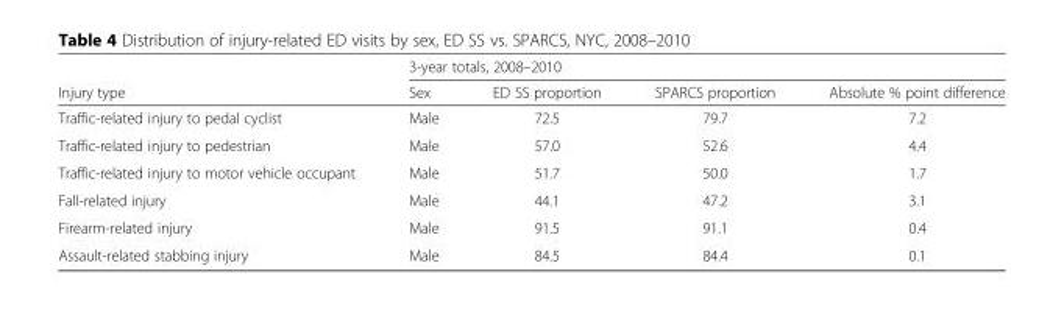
<table><thead><tr><td rowspan="2">Injury type</td><td colspan="4">3-year totals, 2008–2010</td></tr><tr><td>Sex</td><td>ED SS proportion</td><td>SPARCS proportion</td><td>Absolute % point difference</td></tr></thead><tbody><tr><td>Traffic-related injury to pedal cyclist</td><td>Male</td><td>72.5</td><td>79.7</td><td>7.2</td></tr><tr><td>Traffic-related injury to pedestrian</td><td>Male</td><td>57.0</td><td>52.6</td><td>4.4</td></tr><tr><td>Traffic-related injury to motor vehicle occupant</td><td>Male</td><td>51.7</td><td>50.0</td><td>1.7</td></tr><tr><td>Fall-related injury</td><td>Male</td><td>44.1</td><td>47.2</td><td>3.1</td></tr><tr><td>Firearm-related injury</td><td>Male</td><td>91.5</td><td>91.1</td><td>0.4</td></tr><tr><td>Assault-related stabbing injury</td><td>Male</td><td>84.5</td><td>84.4</td><td>0.1</td></tr></tbody></table>